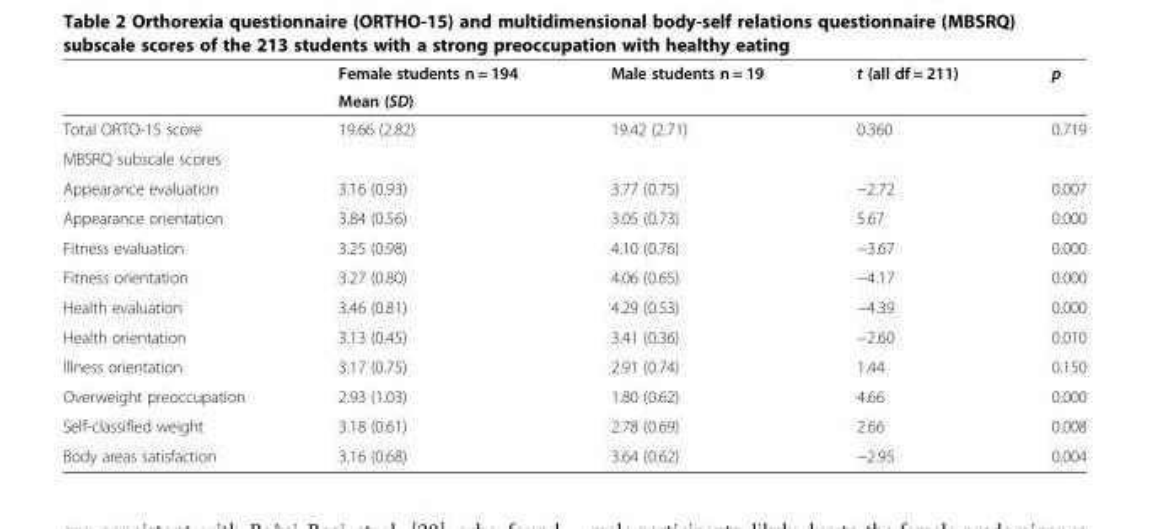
<table><thead><tr><td rowspan="2"></td><td>Female students n = 194</td><td>Male students n = 19</td><td rowspan="2">t (all df = 211)</td><td rowspan="2">p</td></tr><tr><td colspan="2">Mean (SD)</td></tr></thead><tbody><tr><td>Total ORTO-15 score</td><td>19.66 (2.82)</td><td>19.42 (2.71)</td><td>0.360</td><td>0.719</td></tr><tr><td colspan="5">MBSRQ subscale scores</td></tr><tr><td>Appearance evaluation</td><td>3.16 (0.93)</td><td>3.77 (0.75)</td><td>−2.72</td><td>0.007</td></tr><tr><td>Appearance orientation</td><td>3.84 (0.56)</td><td>3.05 (0.73)</td><td>5.67</td><td>0.000</td></tr><tr><td>Fitness evaluation</td><td>3.25 (0.98)</td><td>4.10 (0.76)</td><td>−3.67</td><td>0.000</td></tr><tr><td>Fitness orientation</td><td>3.27 (0.80)</td><td>4.06 (0.65)</td><td>−4.17</td><td>0.000</td></tr><tr><td>Health evaluation</td><td>3.46 (0.81)</td><td>4.29 (0.53)</td><td>−4.39</td><td>0.000</td></tr><tr><td>Health orientation</td><td>3.13 (0.45)</td><td>3.41 (0.36)</td><td>−2.60</td><td>0.010</td></tr><tr><td>Illness orientation</td><td>3.17 (0.75)</td><td>2.91 (0.74)</td><td>1.44</td><td>0.150</td></tr><tr><td>Overweight preoccupation</td><td>2.93 (1.03)</td><td>1.80 (0.62)</td><td>4.66</td><td>0.000</td></tr><tr><td>Self-classified weight</td><td>3.18 (0.61)</td><td>2.78 (0.69)</td><td>2.66</td><td>0.008</td></tr><tr><td>Body areas satisfaction</td><td>3.16 (0.68)</td><td>3.64 (0.62)</td><td>−2.95</td><td>0.004</td></tr></tbody></table>